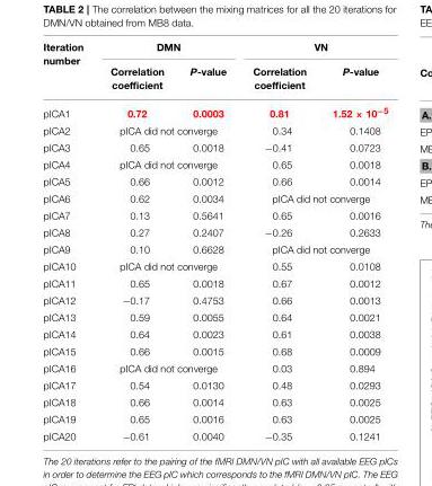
<table><thead><tr><td rowspan="2">Iteration number</td><td colspan="2">DMN</td><td colspan="2">VN</td></tr><tr><td>Correlation coefficient</td><td>P-value</td><td>Correlation coefficient</td><td>P-value</td></tr></thead><tbody><tr><td>pICA1</td><td>0.72</td><td>0.0003</td><td>0.81</td><td>1.52 × 10<sup>−5</sup></td></tr><tr><td>pICA2</td><td colspan="2">pICA did not converge</td><td>0.34</td><td>0.1408</td></tr><tr><td>pICA3</td><td>0.65</td><td>0.0018</td><td>−0.41</td><td>0.0723</td></tr><tr><td>pICA4</td><td colspan="2">pICA did not converge</td><td>0.65</td><td>0.0018</td></tr><tr><td>pICA5</td><td>0.66</td><td>0.0012</td><td>0.66</td><td>0.0014</td></tr><tr><td>pICA6</td><td>0.62</td><td>0.0034</td><td colspan="2">pICA did not converge</td></tr><tr><td>pICA7</td><td>0.13</td><td>0.5641</td><td>0.65</td><td>0.0016</td></tr><tr><td>pICA8</td><td>0.27</td><td>0.2407</td><td>−0.26</td><td>0.2633</td></tr><tr><td>pICA9</td><td>0.10</td><td>0.6628</td><td colspan="2">pICA did not converge</td></tr><tr><td>pICA10</td><td colspan="2">pICA did not converge</td><td>0.55</td><td>0.0108</td></tr><tr><td>pICA11</td><td>0.65</td><td>0.0018</td><td>0.67</td><td>0.0012</td></tr><tr><td>pICA12</td><td>−0.17</td><td>0.4753</td><td>0.66</td><td>0.0013</td></tr><tr><td>pICA13</td><td>0.59</td><td>0.0055</td><td>0.64</td><td>0.0021</td></tr><tr><td>pICA14</td><td>0.64</td><td>0.0023</td><td>0.61</td><td>0.0038</td></tr><tr><td>pICA15</td><td>0.66</td><td>0.0015</td><td>0.68</td><td>0.0009</td></tr><tr><td>pICA16</td><td colspan="2">pICA did not converge</td><td>0.03</td><td>0.894</td></tr><tr><td>pICA17</td><td>0.54</td><td>0.0130</td><td>0.48</td><td>0.0293</td></tr><tr><td>pICA18</td><td>0.66</td><td>0.0014</td><td>0.63</td><td>0.0025</td></tr><tr><td>pICA19</td><td>0.65</td><td>0.0016</td><td>0.63</td><td>0.0025</td></tr><tr><td>pICA20</td><td>−0.61</td><td>0.0040</td><td>−0.35</td><td>0.1241</td></tr></tbody></table>